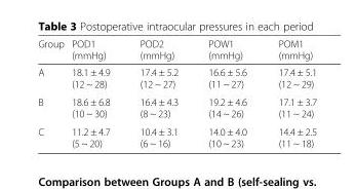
<table><thead><tr><td>Group</td><td>POD1 (mmHg)</td><td>POD2 (mmHg)</td><td>POW1 (mmHg)</td><td>POM1 (mmHg)</td></tr></thead><tbody><tr><td>A</td><td>18.1 ± 4.9 (12 ~ 28)</td><td>17.4 ± 5.2 (12 ~ 27)</td><td>16.6 ± 5.6 (11 ~ 27)</td><td>17.4 ± 5.1 (12 ~ 29)</td></tr><tr><td>B</td><td>18.6 ± 6.8 (10 ~ 30)</td><td>16.4 ± 4.3 (8 ~ 23)</td><td>19.2 ± 4.6 (14 ~ 26)</td><td>17.1 ± 3.7 (11 ~ 24)</td></tr><tr><td>C</td><td>11.2 ± 4.7 (5 ~ 20)</td><td>10.4 ± 3.1 (6 ~ 16)</td><td>14.0 ± 4.0 (10 ~ 23)</td><td>14.4 ± 2.5 (11 ~ 18)</td></tr></tbody></table>